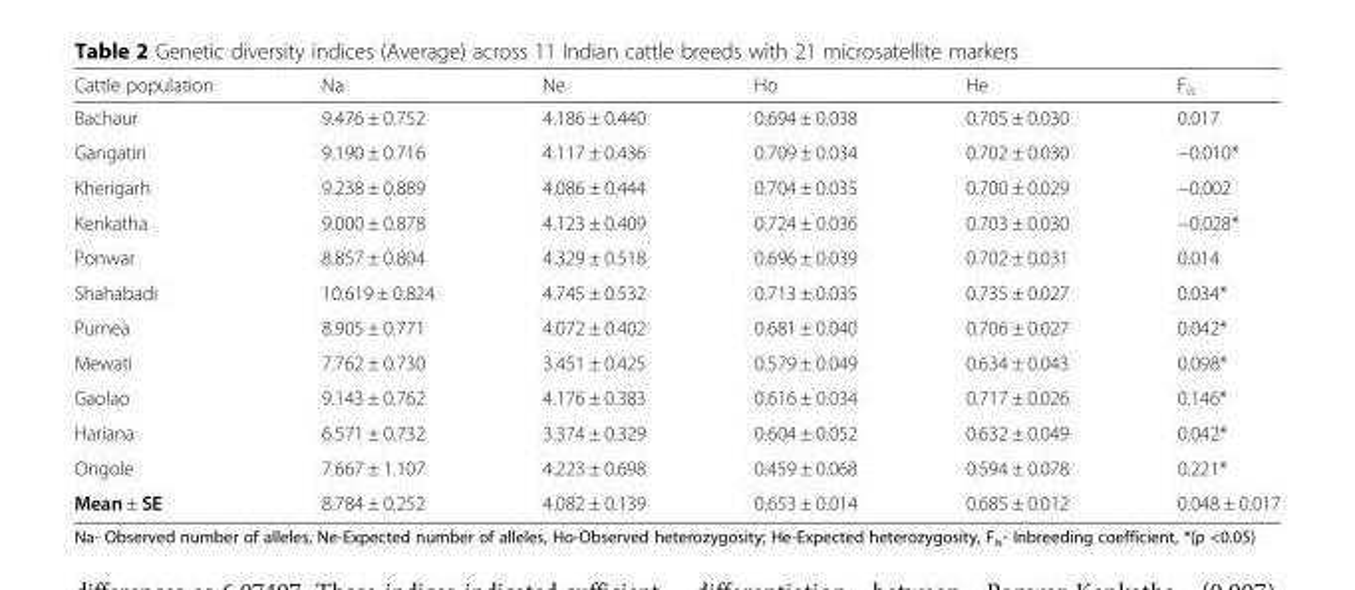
<table><thead><tr><td>Cattle population</td><td>Na</td><td>Ne</td><td>Ho</td><td>He</td><td>F<sub>is</sub></td></tr></thead><tbody><tr><td>Bachaur</td><td>9.476 ± 0.752</td><td>4.186 ± 0.440</td><td>0.694 ± 0.038</td><td>0.705 ± 0.030</td><td>0.017</td></tr><tr><td>Gangatiri</td><td>9.190 ± 0.716</td><td>4.117 ± 0.436</td><td>0.709 ± 0.034</td><td>0.702 ± 0.030</td><td>−0.010*</td></tr><tr><td>Kherigarh</td><td>9.238 ± 0.889</td><td>4.086 ± 0.444</td><td>0.704 ± 0.035</td><td>0.700 ± 0.029</td><td>−0.002</td></tr><tr><td>Kenkatha</td><td>9.000 ± 0.878</td><td>4.123 ± 0.409</td><td>0.724 ± 0.036</td><td>0.703 ± 0.030</td><td>−0.028*</td></tr><tr><td>Ponwar</td><td>8.857 ± 0.804</td><td>4.329 ± 0.518</td><td>0.696 ± 0.039</td><td>0.702 ± 0.031</td><td>0.014</td></tr><tr><td>Shahabadi</td><td>10.619 ± 0.824</td><td>4.745 ± 0.532</td><td>0.713 ± 0.035</td><td>0.735 ± 0.027</td><td>0.034*</td></tr><tr><td>Purnea</td><td>8.905 ± 0.771</td><td>4.072 ± 0.402</td><td>0.681 ± 0.040</td><td>0.706 ± 0.027</td><td>0.042*</td></tr><tr><td>Mewati</td><td>7.762 ± 0.730</td><td>3.451 ± 0.425</td><td>0.579 ± 0.049</td><td>0.634 ± 0.043</td><td>0.098*</td></tr><tr><td>Gaolao</td><td>9.143 ± 0.762</td><td>4.176 ± 0.383</td><td>0.616 ± 0.034</td><td>0.717 ± 0.026</td><td>0.146*</td></tr><tr><td>Hariana</td><td>6.571 ± 0.732</td><td>3.374 ± 0.329</td><td>0.604 ± 0.052</td><td>0.632 ± 0.049</td><td>0.042*</td></tr><tr><td>Ongole</td><td>7.667 ± 1.107</td><td>4.223 ± 0.698</td><td>0.459 ± 0.068</td><td>0.594 ± 0.078</td><td>0.221*</td></tr><tr><td>Mean ± SE</td><td>8.784 ± 0.252</td><td>4.082 ± 0.139</td><td>0.653 ± 0.014</td><td>0.685 ± 0.012</td><td>0.048 ± 0.017</td></tr></tbody></table>